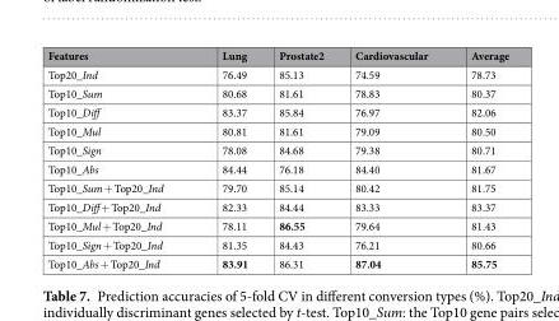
<table><thead><tr><td>Features</td><td>Lung</td><td>Prostate2</td><td>Cardiovascular</td><td>Average</td></tr></thead><tbody><tr><td>Top20_Ind</td><td>76.49</td><td>85.13</td><td>74.59</td><td>78.73</td></tr><tr><td>Top10_Sum</td><td>80.68</td><td>81.61</td><td>78.83</td><td>80.37</td></tr><tr><td>Top10_Diff</td><td>83.37</td><td>85.84</td><td>76.97</td><td>82.06</td></tr><tr><td>Top10_Mul</td><td>80.81</td><td>81.61</td><td>79.09</td><td>80.50</td></tr><tr><td>Top10_Sign</td><td>78.08</td><td>84.68</td><td>79.38</td><td>80.71</td></tr><tr><td>Top10_Abs</td><td>84.44</td><td>76.18</td><td>84.40</td><td>81.67</td></tr><tr><td>Top10_Sum + Top20_Ind</td><td>79.70</td><td>85.14</td><td>80.42</td><td>81.75</td></tr><tr><td>Top10_Diff + Top20_Ind</td><td>82.33</td><td>84.44</td><td>83.33</td><td>83.37</td></tr><tr><td>Top10_Mul + Top20_Ind</td><td>78.11</td><td>86.55</td><td>79.64</td><td>81.43</td></tr><tr><td>Top10_Sign + Top20_Ind</td><td>81.35</td><td>84.43</td><td>76.21</td><td>80.66</td></tr><tr><td>Top10_Abs + Top20_Ind</td><td>83.91</td><td>86.31</td><td>87.04</td><td>85.75</td></tr></tbody></table>